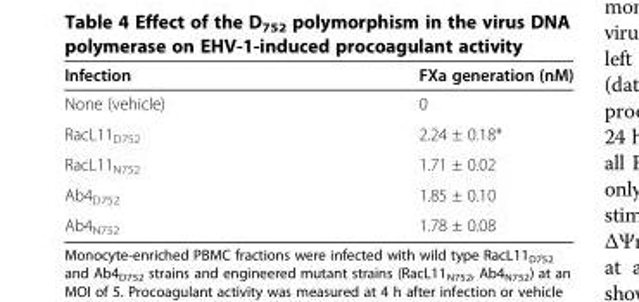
<table><thead><tr><td>Infection</td><td>FXa generation (nM)</td></tr></thead><tbody><tr><td>None (vehicle)</td><td>0</td></tr><tr><td>RacL11<sub>D752</sub></td><td>2.24 ± 0.18*</td></tr><tr><td>RacL11<sub>N752</sub></td><td>1.71 ± 0.02</td></tr><tr><td>Ab4<sub>D752</sub></td><td>1.85 ± 0.10</td></tr><tr><td>Ab4<sub>N752</sub></td><td>1.78 ± 0.08</td></tr></tbody></table>